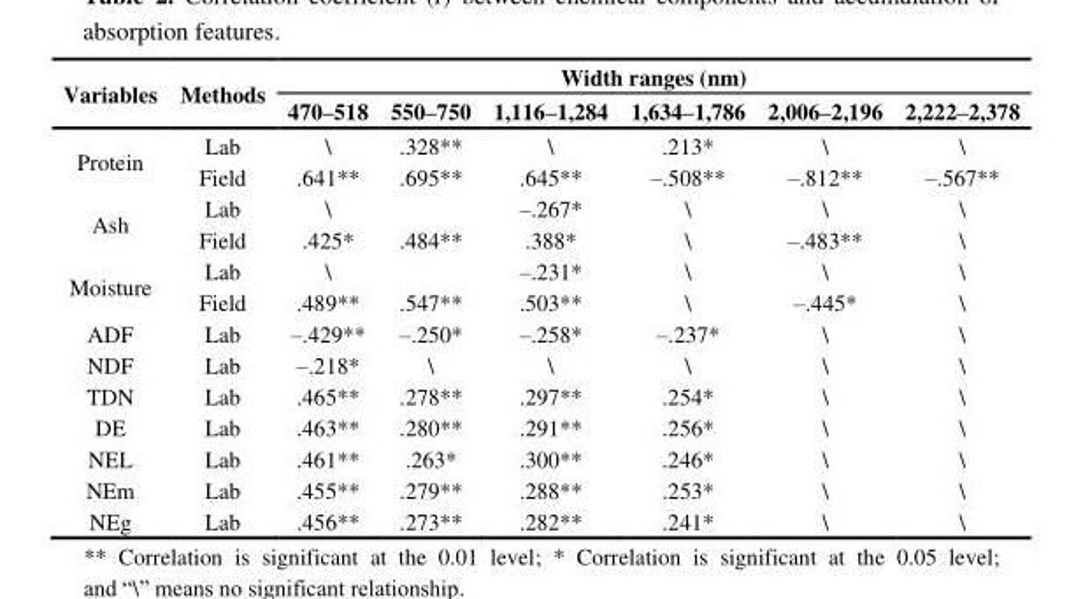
<table><thead><tr><td rowspan="2">Variables</td><td rowspan="2">Methods</td><td colspan="6">Width ranges (nm)</td></tr><tr><td>470–518</td><td>550–750</td><td>1,116–1,284</td><td>1,634–1,786</td><td>2,006–2,196</td><td>2,222–2,378</td></tr></thead><tbody><tr><td rowspan="2">Protein</td><td>Lab</td><td>\</td><td>.328**</td><td>\</td><td>.213*</td><td>\</td><td>\</td></tr><tr><td>Field</td><td>.641**</td><td>.695**</td><td>.645**</td><td>–.508**</td><td>–.812**</td><td>–.567**</td></tr><tr><td rowspan="2">Ash</td><td>Lab</td><td>\</td><td></td><td>–.267*</td><td>\</td><td>\</td><td>\</td></tr><tr><td>Field</td><td>.425*</td><td>.484**</td><td>.388*</td><td>\</td><td>–.483**</td><td>\</td></tr><tr><td rowspan="2">Moisture</td><td>Lab</td><td>\</td><td></td><td>–.231*</td><td>\</td><td>\</td><td>\</td></tr><tr><td>Field</td><td>.489**</td><td>.547**</td><td>.503**</td><td>\</td><td>–.445*</td><td>\</td></tr><tr><td>ADF</td><td>Lab</td><td>–.429**</td><td>–.250*</td><td>–.258*</td><td>–.237*</td><td>\</td><td>\</td></tr><tr><td>NDF</td><td>Lab</td><td>–.218*</td><td>\</td><td>\</td><td>\</td><td>\</td><td>\</td></tr><tr><td>TDN</td><td>Lab</td><td>.465**</td><td>.278**</td><td>.297**</td><td>.254*</td><td>\</td><td>\</td></tr><tr><td>DE</td><td>Lab</td><td>.463**</td><td>.280**</td><td>.291**</td><td>.256*</td><td>\</td><td>\</td></tr><tr><td>NEL</td><td>Lab</td><td>.461**</td><td>.263*</td><td>.300**</td><td>.246*</td><td>\</td><td>\</td></tr><tr><td>NEm</td><td>Lab</td><td>.455**</td><td>.279**</td><td>.288**</td><td>.253*</td><td>\</td><td>\</td></tr><tr><td>NEg</td><td>Lab</td><td>.456**</td><td>.273**</td><td>.282**</td><td>.241*</td><td>\</td><td>\</td></tr></tbody></table>